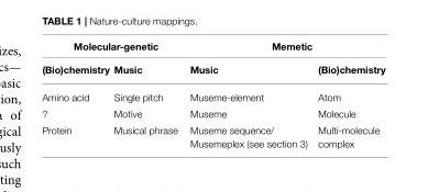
<table><thead><tr><td colspan="2">Molecular-genetic</td><td colspan="2">Memetic</td></tr><tr><td>(Bio)chemistry</td><td>Music</td><td>Music</td><td>(Bio)chemistry</td></tr></thead><tbody><tr><td>Amino acid</td><td>Single pitch</td><td>Museme-element</td><td>Atom</td></tr><tr><td>?</td><td>Motive</td><td>Museme</td><td>Molecule</td></tr><tr><td>Protein</td><td>Musical phrase</td><td>Museme sequence/ Musemeplex (see section 3)</td><td>Multi-molecule complex</td></tr></tbody></table>